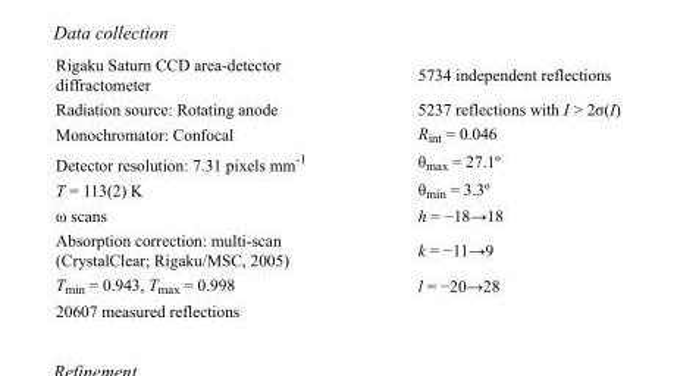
<table><tbody><tr><td>Rigaku Saturn CCD area-detector diffractometer</td><td>5734 independent reflections</td></tr><tr><td>Radiation source: Rotating anode</td><td>5237 reflections with I &gt; 2σ(I)</td></tr><tr><td>Monochromator: Confocal</td><td>R<sub>int</sub> = 0.046</td></tr><tr><td>Detector resolution: 7.31 pixels mm<sup>-1</sup></td><td>θ<sub>max</sub> = 27.1º</td></tr><tr><td>T = 113(2) K</td><td>θ<sub>min</sub> = 3.3º</td></tr><tr><td>ω scans</td><td>h = −18→18</td></tr><tr><td>Absorption correction: multi-scan (CrystalClear; Rigaku/MSC, 2005)</td><td>k = −11→9</td></tr><tr><td>T<sub>min</sub> = 0.943, T<sub>max</sub> = 0.998</td><td>l = −20→28</td></tr><tr><td>20607 measured reflections</td><td></td></tr></tbody></table>